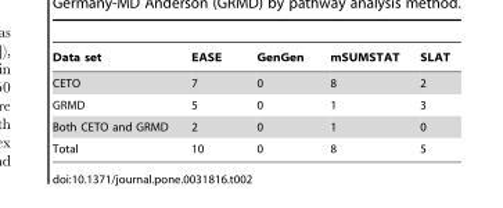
<table><thead><tr><td>Data set</td><td>EASE</td><td>GenGen</td><td>mSUMSTAT</td><td>SLAT</td></tr></thead><tbody><tr><td>CETO</td><td>7</td><td>0</td><td>8</td><td>2</td></tr><tr><td>GRMD</td><td>5</td><td>0</td><td>1</td><td>3</td></tr><tr><td>Both CETO and GRMD</td><td>2</td><td>0</td><td>1</td><td>0</td></tr><tr><td>Total</td><td>10</td><td>0</td><td>8</td><td>5</td></tr></tbody></table>